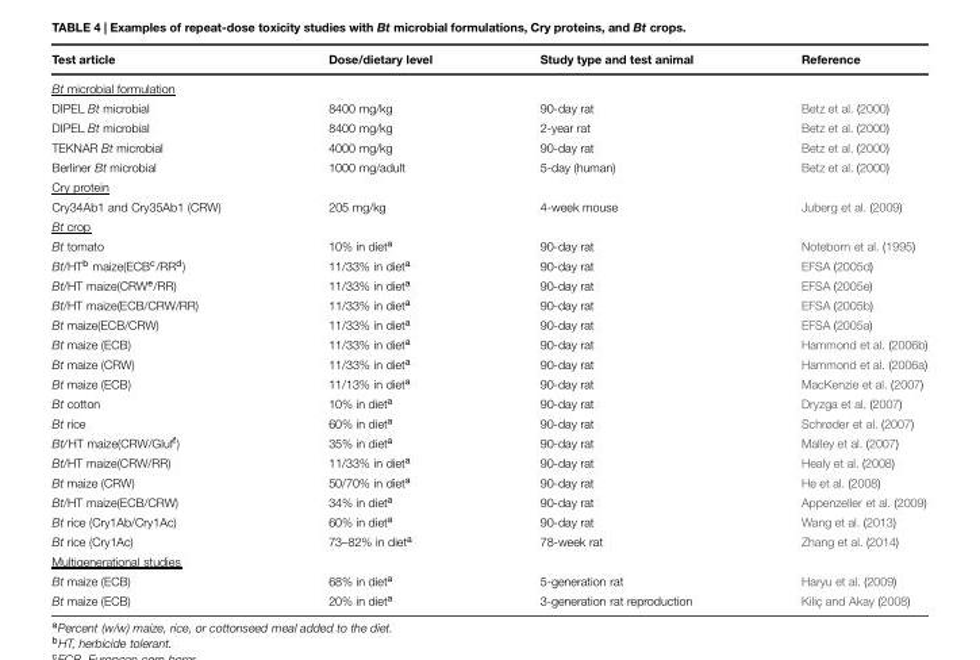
<table><thead><tr><td>Test article</td><td>Dose/dietary level</td><td>Study type and test animal</td><td>Reference</td></tr></thead><tbody><tr><td colspan="4">Bt microbial formulation</td></tr><tr><td>DIPEL Bt microbial</td><td>8400 mg/kg</td><td>90-day rat</td><td>Betz et al. (2000)</td></tr><tr><td>DIPEL Bt microbial</td><td>8400 mg/kg</td><td>2-year rat</td><td>Betz et al. (2000)</td></tr><tr><td>TEKNAR Bt microbial</td><td>4000 mg/kg</td><td>90-day rat</td><td>Betz et al. (2000)</td></tr><tr><td>Berliner Bt microbial</td><td>1000 mg/adult</td><td>5-day (human)</td><td>Betz et al. (2000)</td></tr><tr><td colspan="4">Cry protein</td></tr><tr><td>Cry34Ab1 and Cry35Ab1 (CRW)</td><td>205 mg/kg</td><td>4-week mouse</td><td>Juberg et al. (2009)</td></tr><tr><td colspan="4">Bt crop</td></tr><tr><td>Bt tomato</td><td>10% in diet<sup>a</sup></td><td>90-day rat</td><td>Noteborn et al. (1995)</td></tr><tr><td>Bt/HT<sup>b</sup> maize(ECB<sup>c</sup>/RR<sup>d</sup>)</td><td>11/33% in diet<sup>a</sup></td><td>90-day rat</td><td>EFSA (2005d)</td></tr><tr><td>Bt/HT maize(CRW<sup>e</sup>/RR)</td><td>11/33% in diet<sup>a</sup></td><td>90-day rat</td><td>EFSA (2005e)</td></tr><tr><td>Bt/HT maize(ECB/CRW/RR)</td><td>11/33% in diet<sup>a</sup></td><td>90-day rat</td><td>EFSA (2005b)</td></tr><tr><td>Bt maize(ECB/CRW)</td><td>11/33% in diet<sup>a</sup></td><td>90-day rat</td><td>EFSA (2005a)</td></tr><tr><td>Bt maize (ECB)</td><td>11/33% in diet<sup>a</sup></td><td>90-day rat</td><td>Hammond et al. (2006b)</td></tr><tr><td>Bt maize (CRW)</td><td>11/33% in diet<sup>a</sup></td><td>90-day rat</td><td>Hammond et al. (2006a)</td></tr><tr><td>Bt maize (ECB)</td><td>11/13% in diet<sup>a</sup></td><td>90-day rat</td><td>MacKenzie et al. (2007)</td></tr><tr><td>Bt cotton</td><td>10% in diet<sup>a</sup></td><td>90-day rat</td><td>Dryzga et al. (2007)</td></tr><tr><td>Bt rice</td><td>60% in diet<sup>a</sup></td><td>90-day rat</td><td>Schrøder et al. (2007)</td></tr><tr><td>Bt/HT maize(CRW/Gluf<sup>f</sup>)</td><td>35% in diet<sup>a</sup></td><td>90-day rat</td><td>Malley et al. (2007)</td></tr><tr><td>Bt/HT maize(CRW/RR)</td><td>11/33% in diet<sup>a</sup></td><td>90-day rat</td><td>Healy et al. (2008)</td></tr><tr><td>Bt maize (CRW)</td><td>50/70% in diet<sup>a</sup></td><td>90-day rat</td><td>He et al. (2008)</td></tr><tr><td>Bt/HT maize(ECB/CRW)</td><td>34% in diet<sup>a</sup></td><td>90-day rat</td><td>Appenzeller et al. (2009)</td></tr><tr><td>Bt rice (Cry1Ab/Cry1Ac)</td><td>60% in diet<sup>a</sup></td><td>90-day rat</td><td>Wang et al. (2013)</td></tr><tr><td>Bt rice (Cry1Ac)</td><td>73–82% in diet<sup>a</sup></td><td>78-week rat</td><td>Zhang et al. (2014)</td></tr><tr><td colspan="4">Multigenerational studies</td></tr><tr><td>Bt maize (ECB)</td><td>68% in diet<sup>a</sup></td><td>5-generation rat</td><td>Haryu et al. (2009)</td></tr><tr><td>Bt maize (ECB)</td><td>20% in diet<sup>a</sup></td><td>3-generation rat reproduction</td><td>Kiliç and Akay (2008)</td></tr></tbody></table>